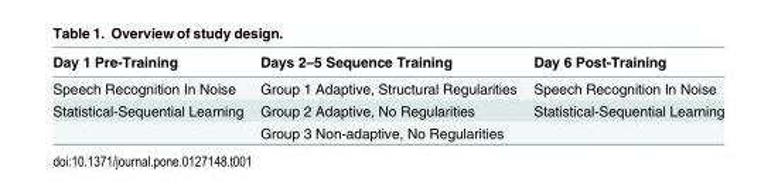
<table><thead><tr><td>Day 1 Pre-Training</td><td>Days 2–5 Sequence Training</td><td>Day 6 Post-Training</td></tr></thead><tbody><tr><td>Speech Recognition In Noise</td><td>Group 1 Adaptive, Structural Regularities</td><td>Speech Recognition In Noise</td></tr><tr><td rowspan="2">Statistical-Sequential Learning</td><td>Group 2 Adaptive, No Regularities</td><td>Statistical-Sequential Learning</td></tr><tr><td>Group 3 Non-adaptive, No Regularities</td><td></td></tr></tbody></table>